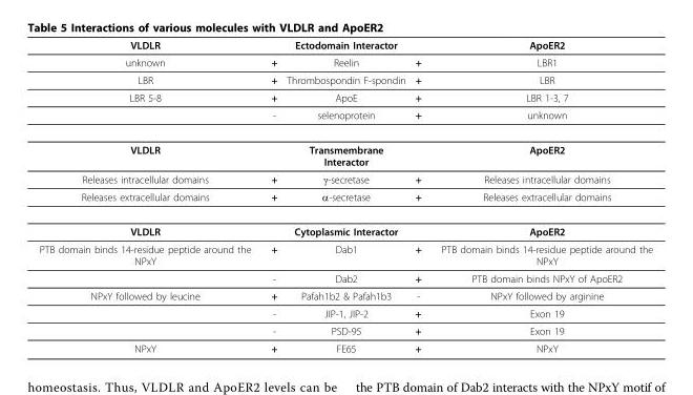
<table><thead><tr><td>VLDLR</td><td></td><td>Ectodomain Interactor</td><td></td><td>ApoER2</td></tr></thead><tbody><tr><td>unknown</td><td>+</td><td>Reelin</td><td>+</td><td>LBR1</td></tr><tr><td>LBR</td><td>+</td><td>Thrombospondin F-spondin</td><td>+</td><td>LBR</td></tr><tr><td rowspan="2">LBR 5-8</td><td>+</td><td>ApoE</td><td>+</td><td>LBR 1-3, 7</td></tr><tr><td>-</td><td>selenoprotein</td><td>+</td><td>unknown</td></tr><tr><td>VLDLR</td><td></td><td>Transmembrane Interactor</td><td></td><td>ApoER2</td></tr><tr><td>Releases intracellular domains</td><td>+</td><td>γ-secretase</td><td>+</td><td>Releases intracellular domains</td></tr><tr><td>Releases extracellular domains</td><td>+</td><td>α-secretase</td><td>+</td><td>Releases extracellular domains</td></tr><tr><td>VLDLR</td><td></td><td>Cytoplasmic Interactor</td><td></td><td>ApoER2</td></tr><tr><td rowspan="2">PTB domain binds 14-residue peptide around the NPxY</td><td>+</td><td>Dab1</td><td>+</td><td>PTB domain binds 14-residue peptide around the NPxY</td></tr><tr><td>-</td><td>Dab2</td><td>+</td><td>PTB domain binds NPxY of ApoER2</td></tr><tr><td rowspan="3">NPxY followed by leucine</td><td>+</td><td>Pafah1b2 &amp; Pafah1b3</td><td>-</td><td>NPxY followed by arginine</td></tr><tr><td>-</td><td>JIP-1, JIP-2</td><td>+</td><td>Exon 19</td></tr><tr><td>-</td><td>PSD-95</td><td>+</td><td>Exon 19</td></tr><tr><td>NPxY</td><td>+</td><td>FE65</td><td>+</td><td>NPxY</td></tr></tbody></table>